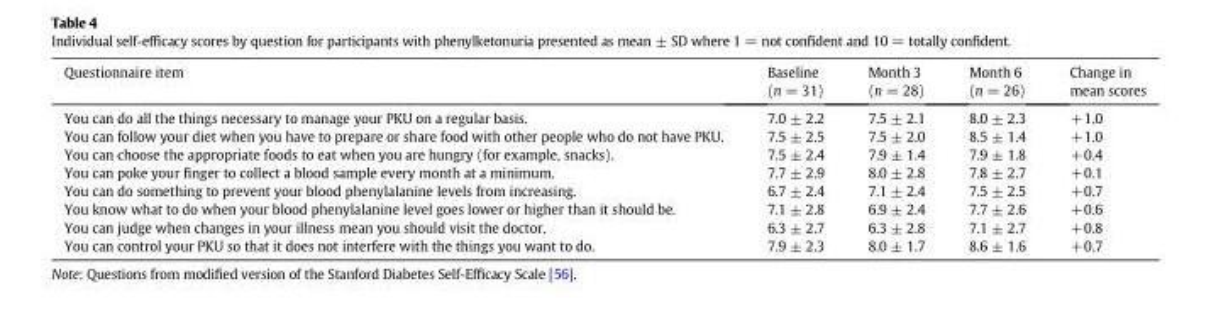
<table><thead><tr><td>Questionnaire item</td><td>Baseline (n = 31)</td><td>Month 3 (n = 28)</td><td>Month 6 (n = 26)</td><td>Change in mean scores</td></tr></thead><tbody><tr><td>You can do all the things necessary to manage your PKU on a regular basis.</td><td>7.0 ± 2.2</td><td>7.5 ± 2.1</td><td>8.0 ± 2.3</td><td>+1.0</td></tr><tr><td>You can follow your diet when you have to prepare or share food with other people who do not have PKU.</td><td>7.5 ± 2.5</td><td>7.5 ± 2.0</td><td>8.5 ± 1.4</td><td>+1.0</td></tr><tr><td>You can choose the appropriate foods to eat when you are hungry (for example, snacks).</td><td>7.5 ± 2.4</td><td>7.9 ± 1.4</td><td>7.9 ± 1.8</td><td>+0.4</td></tr><tr><td>You can poke your finger to collect a blood sample every month at a minimum.</td><td>7.7 ± 2.9</td><td>8.0 ± 2.8</td><td>7.8 ± 2.7</td><td>+0.1</td></tr><tr><td>You can do something to prevent your blood phenylalanine levels from increasing.</td><td>6.7 ± 2.4</td><td>7.1 ± 2.4</td><td>7.5 ± 2.5</td><td>+0.7</td></tr><tr><td>You know what to do when your blood phenylalanine level goes lower or higher than it should be.</td><td>7.1 ± 2.8</td><td>6.9 ± 2.4</td><td>7.7 ± 2.6</td><td>+0.6</td></tr><tr><td>You can judge when changes in your illness mean you should visit the doctor.</td><td>6.3 ± 2.7</td><td>6.3 ± 2.8</td><td>7.1 ± 2.7</td><td>+0.8</td></tr><tr><td>You can control your PKU so that it does not interfere with the things you want to do.</td><td>7.9 ± 2.3</td><td>8.0 ± 1.7</td><td>8.6 ± 1.6</td><td>+0.7</td></tr></tbody></table>